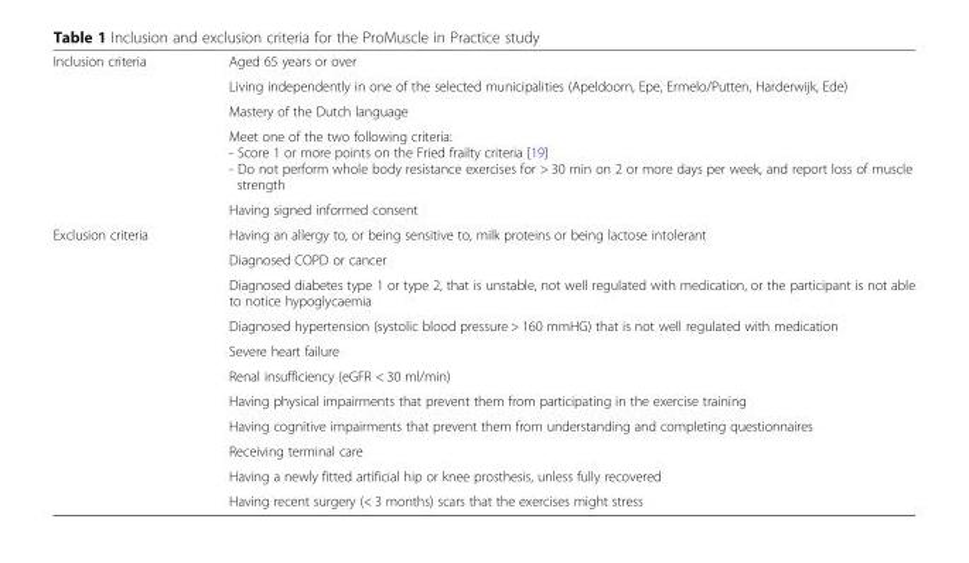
<table><tbody><tr><td rowspan="5">Inclusion criteria</td><td>Aged 65 years or over</td></tr><tr><td>Living independently in one of the selected municipalities (Apeldoorn, Epe, Ermelo/Putten, Harderwijk, Ede)</td></tr><tr><td>Mastery of the Dutch language</td></tr><tr><td>Meet one of the two following criteria: - Score 1 or more points on the Fried frailty criteria [19] - Do not perform whole body resistance exercises for &gt; 30 min on 2 or more days per week, and report loss of muscle strength</td></tr><tr><td>Having signed informed consent</td></tr><tr><td rowspan="11">Exclusion criteria</td><td>Having an allergy to, or being sensitive to, milk proteins or being lactose intolerant</td></tr><tr><td>Diagnosed COPD or cancer</td></tr><tr><td>Diagnosed diabetes type 1 or type 2, that is unstable, not well regulated with medication, or the participant is not able to notice hypoglycaemia</td></tr><tr><td>Diagnosed hypertension (systolic blood pressure &gt; 160 mmHG) that is not well regulated with medication</td></tr><tr><td>Severe heart failure</td></tr><tr><td>Renal insufficiency (eGFR &lt; 30 ml/min)</td></tr><tr><td>Having physical impairments that prevent them from participating in the exercise training</td></tr><tr><td>Having cognitive impairments that prevent them from understanding and completing questionnaires</td></tr><tr><td>Receiving terminal care</td></tr><tr><td>Having a newly fitted artificial hip or knee prosthesis, unless fully recovered</td></tr><tr><td>Having recent surgery (&lt; 3 months) scars that the exercises might stress</td></tr></tbody></table>